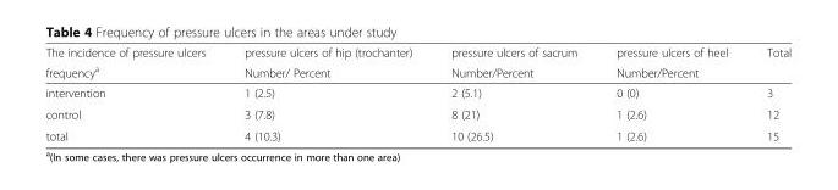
<table><thead><tr><td rowspan="2">The incidence of pressure ulcers frequency<sup>a</sup></td><td rowspan="2">pressure ulcers of hip (trochanter) Number/ Percent</td><td rowspan="2">pressure ulcers of sacrum Number/Percent</td><td rowspan="2">pressure ulcers of heel Number/Percent</td><td rowspan="2">Total</td></tr><tr></tr></thead><tbody><tr><td>intervention</td><td>1 (2.5)</td><td>2 (5.1)</td><td>0 (0)</td><td>3</td></tr><tr><td>control</td><td>3 (7.8)</td><td>8 (21)</td><td>1 (2.6)</td><td>12</td></tr><tr><td>total</td><td>4 (10.3)</td><td>10 (26.5)</td><td>1 (2.6)</td><td>15</td></tr></tbody></table>